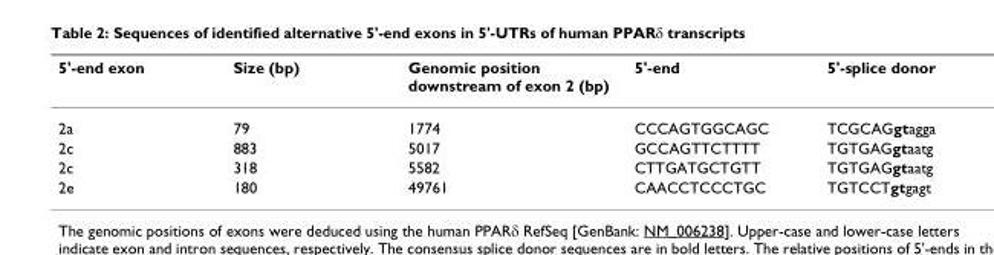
<table><thead><tr><td>5&#x27;-end exon</td><td>Size (bp)</td><td>Genomic position downstream of exon 2 (bp)</td><td>5&#x27;-end</td><td>5&#x27;-splice donor</td></tr></thead><tbody><tr><td>2a</td><td>79</td><td>1774</td><td>CCCAGTGGCAGC</td><td>TCGCAGgtagga</td></tr><tr><td>2c</td><td>883</td><td>5017</td><td>GCCAGTTCTTTT</td><td>TGTGAGgtaatg</td></tr><tr><td>2c</td><td>318</td><td>5582</td><td>CTTGATGCTGTT</td><td>TGTGAGgtaatg</td></tr><tr><td>2e</td><td>180</td><td>49761</td><td>CAACCTCCCTGC</td><td>TGTCCTgtgagt</td></tr></tbody></table>